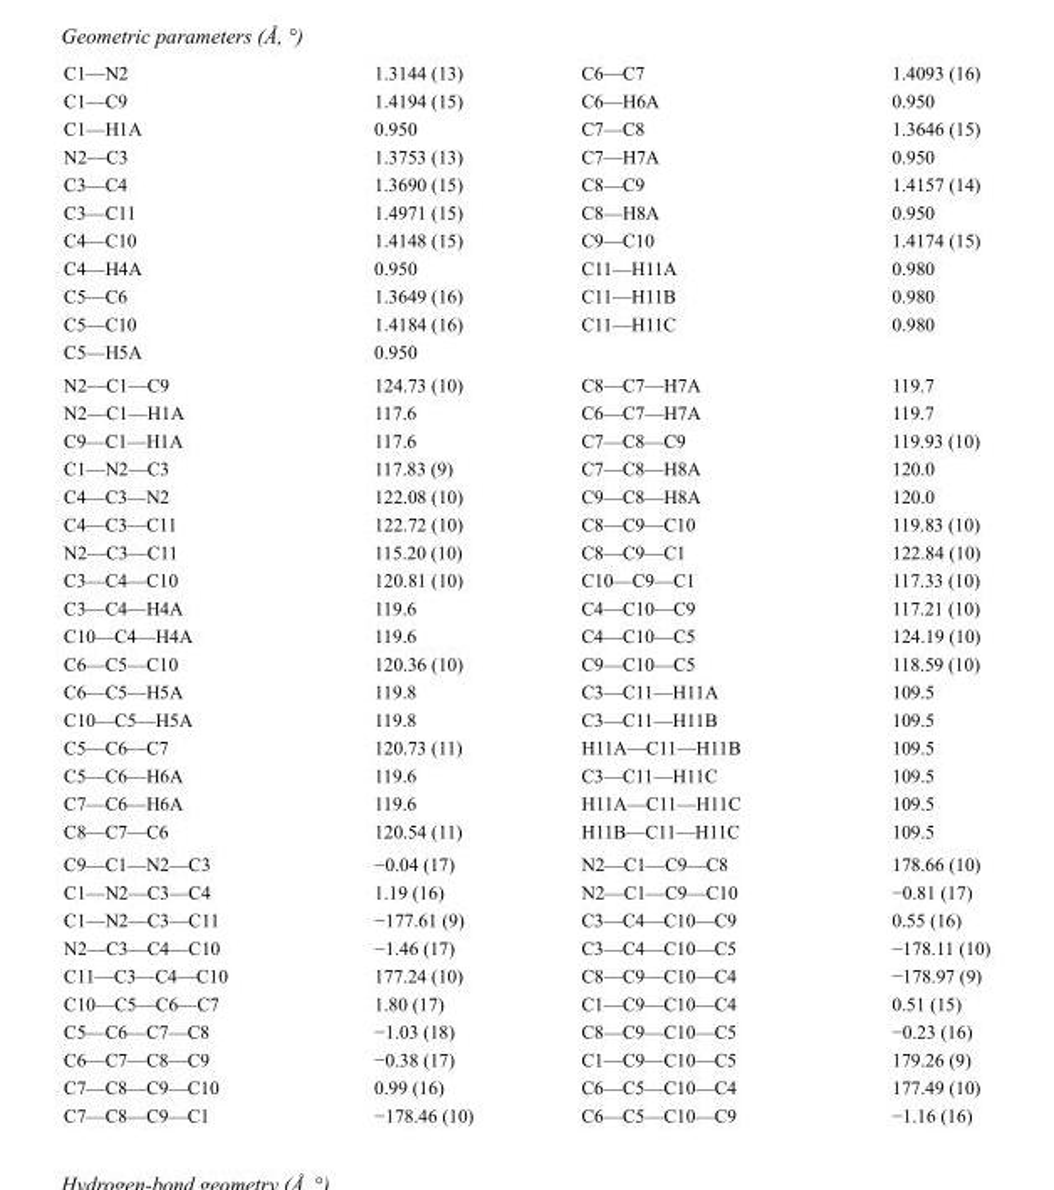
<table><tbody><tr><td>C1—N2</td><td>1.3144 (13)</td><td>C6—C7</td><td>1.4093 (16)</td></tr><tr><td>C1—C9</td><td>1.4194 (15)</td><td>C6—H6A</td><td>0.950</td></tr><tr><td>C1—H1A</td><td>0.950</td><td>C7—C8</td><td>1.3646 (15)</td></tr><tr><td>N2—C3</td><td>1.3753 (13)</td><td>C7—H7A</td><td>0.950</td></tr><tr><td>C3—C4</td><td>1.3690 (15)</td><td>C8—C9</td><td>1.4157 (14)</td></tr><tr><td>C3—C11</td><td>1.4971 (15)</td><td>C8—H8A</td><td>0.950</td></tr><tr><td>C4—C10</td><td>1.4148 (15)</td><td>C9—C10</td><td>1.4174 (15)</td></tr><tr><td>C4—H4A</td><td>0.950</td><td>C11—H11A</td><td>0.980</td></tr><tr><td>C5—C6</td><td>1.3649 (16)</td><td>C11—H11B</td><td>0.980</td></tr><tr><td>C5—C10</td><td>1.4184 (16)</td><td>C11—H11C</td><td>0.980</td></tr><tr><td>C5—H5A</td><td>0.950</td><td></td><td></td></tr><tr><td>N2—C1—C9</td><td>124.73 (10)</td><td>C8—C7—H7A</td><td>119.7</td></tr><tr><td>N2—C1—H1A</td><td>117.6</td><td>C6—C7—H7A</td><td>119.7</td></tr><tr><td>C9—C1—H1A</td><td>117.6</td><td>C7—C8—C9</td><td>119.93 (10)</td></tr><tr><td>C1—N2—C3</td><td>117.83 (9)</td><td>C7—C8—H8A</td><td>120.0</td></tr><tr><td>C4—C3—N2</td><td>122.08 (10)</td><td>C9—C8—H8A</td><td>120.0</td></tr><tr><td>C4—C3—C11</td><td>122.72 (10)</td><td>C8—C9—C10</td><td>119.83 (10)</td></tr><tr><td>N2—C3—C11</td><td>115.20 (10)</td><td>C8—C9—C1</td><td>122.84 (10)</td></tr><tr><td>C3—C4—C10</td><td>120.81 (10)</td><td>C10—C9—C1</td><td>117.33 (10)</td></tr><tr><td>C3—C4—H4A</td><td>119.6</td><td>C4—C10—C9</td><td>117.21 (10)</td></tr><tr><td>C10—C4—H4A</td><td>119.6</td><td>C4—C10—C5</td><td>124.19 (10)</td></tr><tr><td>C6—C5—C10</td><td>120.36 (10)</td><td>C9—C10—C5</td><td>118.59 (10)</td></tr><tr><td>C6—C5—H5A</td><td>119.8</td><td>C3—C11—H11A</td><td>109.5</td></tr><tr><td>C10—C5—H5A</td><td>119.8</td><td>C3—C11—H11B</td><td>109.5</td></tr><tr><td>C5—C6—C7</td><td>120.73 (11)</td><td>H11A—C11—H11B</td><td>109.5</td></tr><tr><td>C5—C6—H6A</td><td>119.6</td><td>C3—C11—H11C</td><td>109.5</td></tr><tr><td>C7—C6—H6A</td><td>119.6</td><td>H11A—C11—H11C</td><td>109.5</td></tr><tr><td>C8—C7—C6</td><td>120.54 (11)</td><td>H11B—C11—H11C</td><td>109.5</td></tr><tr><td>C9—C1—N2—C3</td><td>−0.04 (17)</td><td>N2—C1—C9—C8</td><td>178.66 (10)</td></tr><tr><td>C1—N2—C3—C4</td><td>1.19 (16)</td><td>N2—C1—C9—C10</td><td>−0.81 (17)</td></tr><tr><td>C1—N2—C3—C11</td><td>−177.61 (9)</td><td>C3—C4—C10—C9</td><td>0.55 (16)</td></tr><tr><td>N2—C3—C4—C10</td><td>−1.46 (17)</td><td>C3—C4—C10—C5</td><td>−178.11 (10)</td></tr><tr><td>C11—C3—C4—C10</td><td>177.24 (10)</td><td>C8—C9—C10—C4</td><td>−178.97 (9)</td></tr><tr><td>C10—C5—C6—C7</td><td>1.80 (17)</td><td>C1—C9—C10—C4</td><td>0.51 (15)</td></tr><tr><td>C5—C6—C7—C8</td><td>−1.03 (18)</td><td>C8—C9—C10—C5</td><td>−0.23 (16)</td></tr><tr><td>C6—C7—C8—C9</td><td>−0.38 (17)</td><td>C1—C9—C10—C5</td><td>179.26 (9)</td></tr><tr><td>C7—C8—C9—C10</td><td>0.99 (16)</td><td>C6—C5—C10—C4</td><td>177.49 (10)</td></tr><tr><td>C7—C8—C9—C1</td><td>−178.46 (10)</td><td>C6—C5—C10—C9</td><td>−1.16 (16)</td></tr></tbody></table>